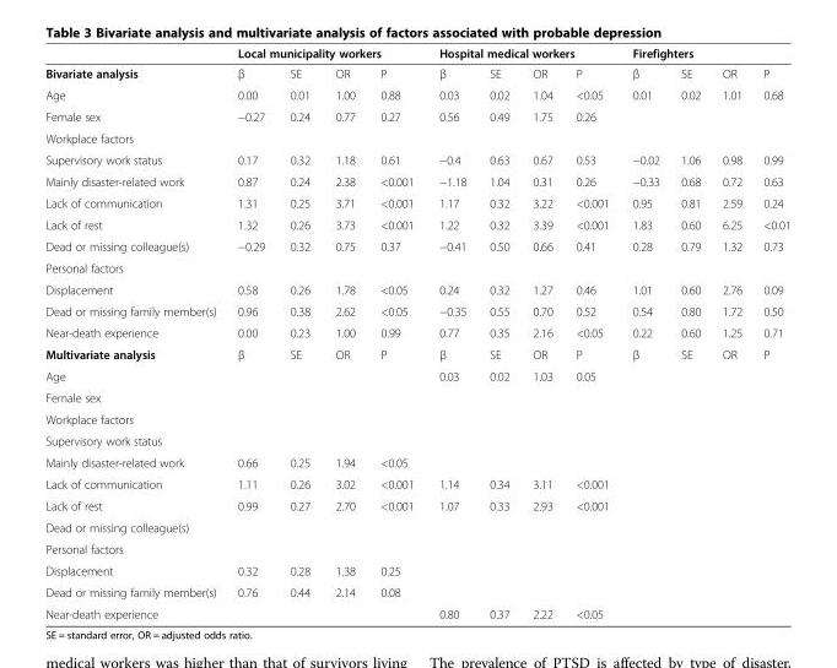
<table><thead><tr><td rowspan="2">Bivariate analysis</td><td colspan="4">Local municipality workers</td><td colspan="4">Hospital medical workers</td><td colspan="4">Firefighters</td></tr><tr><td>β</td><td>SE</td><td>OR</td><td>P</td><td>β</td><td>SE</td><td>OR</td><td>P</td><td>β</td><td>SE</td><td>OR</td><td>P</td></tr></thead><tbody><tr><td>Age</td><td>0.00</td><td>0.01</td><td>1.00</td><td>0.88</td><td>0.03</td><td>0.02</td><td>1.04</td><td>&lt;0.05</td><td>0.01</td><td>0.02</td><td>1.01</td><td>0.68</td></tr><tr><td>Female sex</td><td>−0.27</td><td>0.24</td><td>0.77</td><td>0.27</td><td>0.56</td><td>0.49</td><td>1.75</td><td>0.26</td><td></td><td></td><td></td><td></td></tr><tr><td colspan="13">Workplace factors</td></tr><tr><td>Supervisory work status</td><td>0.17</td><td>0.32</td><td>1.18</td><td>0.61</td><td>−0.4</td><td>0.63</td><td>0.67</td><td>0.53</td><td>−0.02</td><td>1.06</td><td>0.98</td><td>0.99</td></tr><tr><td>Mainly disaster-related work</td><td>0.87</td><td>0.24</td><td>2.38</td><td>&lt;0.001</td><td>−1.18</td><td>1.04</td><td>0.31</td><td>0.26</td><td>−0.33</td><td>0.68</td><td>0.72</td><td>0.63</td></tr><tr><td>Lack of communication</td><td>1.31</td><td>0.25</td><td>3.71</td><td>&lt;0.001</td><td>1.17</td><td>0.32</td><td>3.22</td><td>&lt;0.001</td><td>0.95</td><td>0.81</td><td>2.59</td><td>0.24</td></tr><tr><td>Lack of rest</td><td>1.32</td><td>0.26</td><td>3.73</td><td>&lt;0.001</td><td>1.22</td><td>0.32</td><td>3.39</td><td>&lt;0.001</td><td>1.83</td><td>0.60</td><td>6.25</td><td>&lt;0.01</td></tr><tr><td>Dead or missing colleague(s)</td><td>−0.29</td><td>0.32</td><td>0.75</td><td>0.37</td><td>−0.41</td><td>0.50</td><td>0.66</td><td>0.41</td><td>0.28</td><td>0.79</td><td>1.32</td><td>0.73</td></tr><tr><td colspan="13">Personal factors</td></tr><tr><td>Displacement</td><td>0.58</td><td>0.26</td><td>1.78</td><td>&lt;0.05</td><td>0.24</td><td>0.32</td><td>1.27</td><td>0.46</td><td>1.01</td><td>0.60</td><td>2.76</td><td>0.09</td></tr><tr><td>Dead or missing family member(s)</td><td>0.96</td><td>0.38</td><td>2.62</td><td>&lt;0.05</td><td>−0.35</td><td>0.55</td><td>0.70</td><td>0.52</td><td>0.54</td><td>0.80</td><td>1.72</td><td>0.50</td></tr><tr><td>Near-death experience</td><td>0.00</td><td>0.23</td><td>1.00</td><td>0.99</td><td>0.77</td><td>0.35</td><td>2.16</td><td>&lt;0.05</td><td>0.22</td><td>0.60</td><td>1.25</td><td>0.71</td></tr><tr><td>Multivariate analysis</td><td>β</td><td>SE</td><td>OR</td><td>P</td><td>β</td><td>SE</td><td>OR</td><td>P</td><td>β</td><td>SE</td><td>OR</td><td>P</td></tr><tr><td>Age</td><td></td><td></td><td></td><td></td><td>0.03</td><td>0.02</td><td>1.03</td><td>0.05</td><td></td><td></td><td></td><td></td></tr><tr><td colspan="13">Female sex</td></tr><tr><td colspan="13">Workplace factors</td></tr><tr><td colspan="13">Supervisory work status</td></tr><tr><td>Mainly disaster-related work</td><td>0.66</td><td>0.25</td><td>1.94</td><td>&lt;0.05</td><td></td><td></td><td></td><td></td><td></td><td></td><td></td><td></td></tr><tr><td>Lack of communication</td><td>1.11</td><td>0.26</td><td>3.02</td><td>&lt;0.001</td><td>1.14</td><td>0.34</td><td>3.11</td><td>&lt;0.001</td><td></td><td></td><td></td><td></td></tr><tr><td>Lack of rest</td><td>0.99</td><td>0.27</td><td>2.70</td><td>&lt;0.001</td><td>1.07</td><td>0.33</td><td>2.93</td><td>&lt;0.001</td><td></td><td></td><td></td><td></td></tr><tr><td colspan="13">Dead or missing colleague(s)</td></tr><tr><td colspan="13">Personal factors</td></tr><tr><td>Displacement</td><td>0.32</td><td>0.28</td><td>1.38</td><td>0.25</td><td></td><td></td><td></td><td></td><td></td><td></td><td></td><td></td></tr><tr><td>Dead or missing family member(s)</td><td>0.76</td><td>0.44</td><td>2.14</td><td>0.08</td><td></td><td></td><td></td><td></td><td></td><td></td><td></td><td></td></tr><tr><td>Near-death experience</td><td></td><td></td><td></td><td></td><td>0.80</td><td>0.37</td><td>2.22</td><td>&lt;0.05</td><td></td><td></td><td></td><td></td></tr></tbody></table>